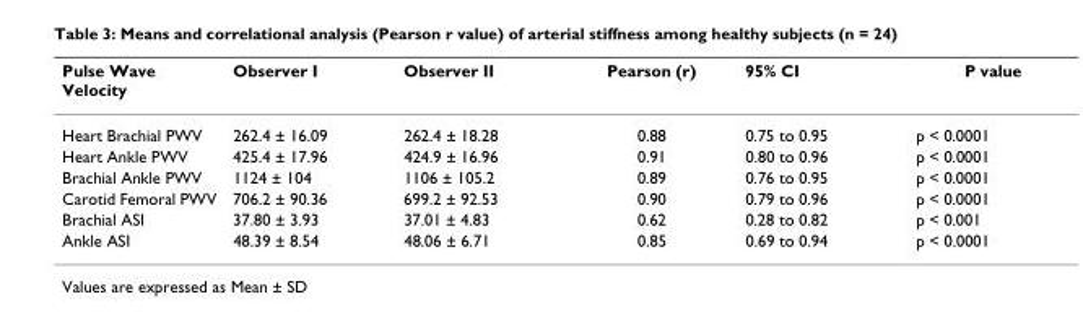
<table><thead><tr><td>Pulse Wave Velocity</td><td>Observer I</td><td>Observer II</td><td>Pearson (r)</td><td>95% CI</td><td>P value</td></tr></thead><tbody><tr><td>Heart Brachial PWV</td><td>262.4 ± 16.09</td><td>262.4 ± 18.28</td><td>0.88</td><td>0.75 to 0.95</td><td>p &lt; 0.0001</td></tr><tr><td>Heart Ankle PWV</td><td>425.4 ± 17.96</td><td>424.9 ± 16.96</td><td>0.91</td><td>0.80 to 0.96</td><td>p &lt; 0.0001</td></tr><tr><td>Brachial Ankle PWV</td><td>1124 ± 104</td><td>1106 ± 105.2</td><td>0.89</td><td>0.76 to 0.95</td><td>p &lt; 0.0001</td></tr><tr><td>Carotid Femoral PWV</td><td>706.2 ± 90.36</td><td>699.2 ± 92.53</td><td>0.90</td><td>0.79 to 0.96</td><td>p &lt; 0.0001</td></tr><tr><td>Brachial ASI</td><td>37.80 ± 3.93</td><td>37.01 ± 4.83</td><td>0.62</td><td>0.28 to 0.82</td><td>p &lt; 0.001</td></tr><tr><td>Ankle ASI</td><td>48.39 ± 8.54</td><td>48.06 ± 6.71</td><td>0.85</td><td>0.69 to 0.94</td><td>p &lt; 0.0001</td></tr></tbody></table>